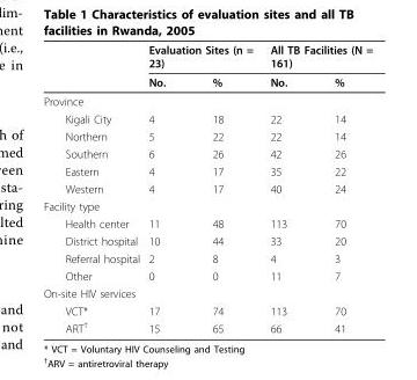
<table><thead><tr><td rowspan="2"></td><td colspan="2">Evaluation Sites (n = 23)</td><td colspan="2">All TB Facilities (N = 161)</td></tr><tr><td>No.</td><td>%</td><td>No.</td><td>%</td></tr></thead><tbody><tr><td colspan="5">Province</td></tr><tr><td>Kigali City</td><td>4</td><td>18</td><td>22</td><td>14</td></tr><tr><td>Northern</td><td>5</td><td>22</td><td>22</td><td>14</td></tr><tr><td>Southern</td><td>6</td><td>26</td><td>42</td><td>26</td></tr><tr><td>Eastern</td><td>4</td><td>17</td><td>35</td><td>22</td></tr><tr><td>Western</td><td>4</td><td>17</td><td>40</td><td>24</td></tr><tr><td colspan="5">Facility type</td></tr><tr><td>Health center</td><td>11</td><td>48</td><td>113</td><td>70</td></tr><tr><td>District hospital</td><td>10</td><td>44</td><td>33</td><td>20</td></tr><tr><td>Referral hospital</td><td>2</td><td>8</td><td>4</td><td>3</td></tr><tr><td>Other</td><td>0</td><td>0</td><td>11</td><td>7</td></tr><tr><td colspan="5">On-site HIV services</td></tr><tr><td>VCT*</td><td>17</td><td>74</td><td>113</td><td>70</td></tr><tr><td>ART<sup>†</sup></td><td>15</td><td>65</td><td>66</td><td>41</td></tr></tbody></table>